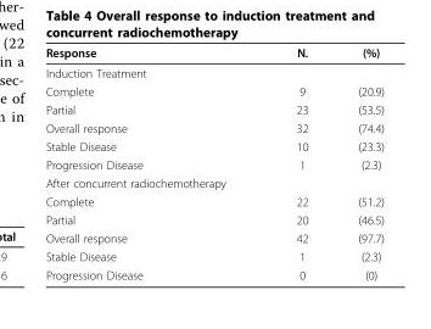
<table><thead><tr><td>Response</td><td>N.</td><td>(%)</td></tr></thead><tbody><tr><td colspan="3">Induction Treatment</td></tr><tr><td>Complete</td><td>9</td><td>(20.9)</td></tr><tr><td>Partial</td><td>23</td><td>(53.5)</td></tr><tr><td>Overall response</td><td>32</td><td>(74.4)</td></tr><tr><td>Stable Disease</td><td>10</td><td>(23.3)</td></tr><tr><td>Progression Disease</td><td>1</td><td>(2.3)</td></tr><tr><td colspan="3">After concurrent radiochemotherapy</td></tr><tr><td>Complete</td><td>22</td><td>(51.2)</td></tr><tr><td>Partial</td><td>20</td><td>(46.5)</td></tr><tr><td>Overall response</td><td>42</td><td>(97.7)</td></tr><tr><td>Stable Disease</td><td>1</td><td>(2.3)</td></tr><tr><td>Progression Disease</td><td>0</td><td>(0)</td></tr></tbody></table>